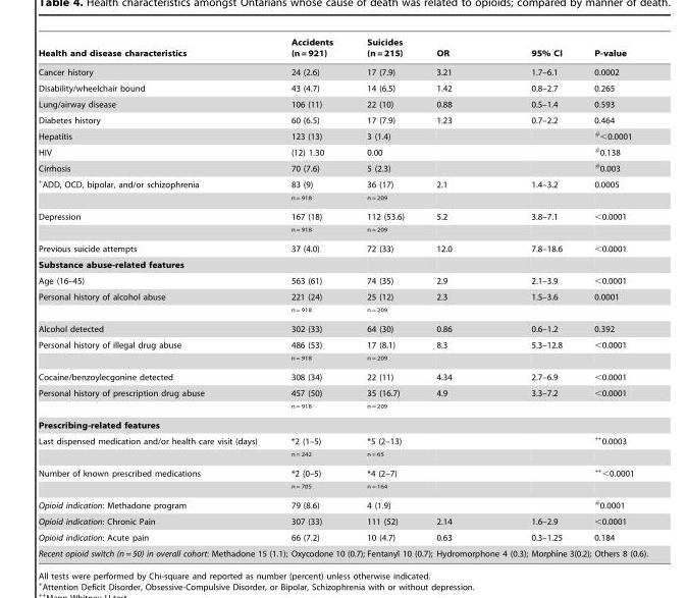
<table><thead><tr><td>Health and disease characteristics</td><td>Accidents (n = 921)</td><td>Suicides (n = 215)</td><td>OR</td><td>95% CI</td><td>P-value</td></tr></thead><tbody><tr><td>Cancer history</td><td>24 (2.6)</td><td>17 (7.9)</td><td>3.21</td><td>1.7–6.1</td><td>0.0002</td></tr><tr><td>Disability/wheelchair bound</td><td>43 (4.7)</td><td>14 (6.5)</td><td>1.42</td><td>0.8–2.7</td><td>0.265</td></tr><tr><td>Lung/airway disease</td><td>106 (11)</td><td>22 (10)</td><td>0.88</td><td>0.5–1.4</td><td>0.593</td></tr><tr><td>Diabetes history</td><td>60 (6.5)</td><td>17 (7.9)</td><td>1.23</td><td>0.7–2.2</td><td>0.464</td></tr><tr><td>Hepatitis</td><td>123 (13)</td><td>3 (1.4)</td><td></td><td></td><td>#&lt;0.0001</td></tr><tr><td>HIV</td><td>(12) 1.30</td><td>0.00</td><td></td><td></td><td>#0.138</td></tr><tr><td>Cirrhosis</td><td>70 (7.6)</td><td>5 (2.3)</td><td></td><td></td><td>#0.003</td></tr><tr><td rowspan="2">+ADD, OCD, bipolar, and/or schizophrenia</td><td>83 (9)</td><td>36 (17)</td><td>2.1</td><td>1.4–3.2</td><td>0.0005</td></tr><tr><td><sup>n = 918</sup></td><td><sup>n = 209</sup></td><td></td><td></td><td></td></tr><tr><td rowspan="2">Depression</td><td>167 (18)</td><td>112 (53.6)</td><td>5.2</td><td>3.8–7.1</td><td>&lt;0.0001</td></tr><tr><td><sup>n = 918</sup></td><td><sup>n = 209</sup></td><td></td><td></td><td></td></tr><tr><td>Previous suicide attempts</td><td>37 (4.0)</td><td>72 (33)</td><td>12.0</td><td>7.8–18.6</td><td>&lt;0.0001</td></tr><tr><td colspan="6">Substance abuse-related features</td></tr><tr><td>Age (16–45)</td><td>563 (61)</td><td>74 (35)</td><td>2.9</td><td>2.1–3.9</td><td>&lt;0.0001</td></tr><tr><td rowspan="2">Personal history of alcohol abuse</td><td>221 (24)</td><td>25 (12)</td><td>2.3</td><td>1.5–3.6</td><td>0.0001</td></tr><tr><td><sup>n = 918</sup></td><td><sup>n = 209</sup></td><td></td><td></td><td></td></tr><tr><td>Alcohol detected</td><td>302 (33)</td><td>64 (30)</td><td>0.86</td><td>0.6–1.2</td><td>0.392</td></tr><tr><td rowspan="2">Personal history of illegal drug abuse</td><td>486 (53)</td><td>17 (8.1)</td><td>8.3</td><td>5.3–12.8</td><td>&lt;0.0001</td></tr><tr><td><sup>n = 918</sup></td><td><sup>n = 209</sup></td><td></td><td></td><td></td></tr><tr><td>Cocaine/benzoylecgonine detected</td><td>308 (34)</td><td>22 (11)</td><td>4.34</td><td>2.7–6.9</td><td>&lt;0.0001</td></tr><tr><td rowspan="2">Personal history of prescription drug abuse</td><td>457 (50)</td><td>35 (16.7)</td><td>4.9</td><td>3.3–7.2</td><td>&lt;0.0001</td></tr><tr><td><sup>n = 918</sup></td><td><sup>n = 209</sup></td><td></td><td></td><td></td></tr><tr><td colspan="6">Prescribing-related features</td></tr><tr><td rowspan="2">Last dispensed medication and/or health care visit (days)</td><td>*2 (1–5)</td><td>*5 (2–13)</td><td></td><td></td><td>++0.0003</td></tr><tr><td><sup>n = 242</sup></td><td><sup>n = 65</sup></td><td></td><td></td><td></td></tr><tr><td rowspan="2">Number of known prescribed medications</td><td>*2 (0–5)</td><td>*4 (2–7)</td><td></td><td></td><td>++&lt;0.0001</td></tr><tr><td><sup>n = 705</sup></td><td><sup>n = 164</sup></td><td></td><td></td><td></td></tr><tr><td>Opioid indication: Methadone program</td><td>79 (8.6)</td><td>4 (1.9)</td><td></td><td></td><td>#0.0001</td></tr><tr><td>Opioid indication: Chronic Pain</td><td>307 (33)</td><td>111 (52)</td><td>2.14</td><td>1.6–2.9</td><td>&lt;0.0001</td></tr><tr><td>Opioid indication: Acute pain</td><td>66 (7.2)</td><td>10 (4.7)</td><td>0.63</td><td>0.3–1.25</td><td>0.184</td></tr><tr><td>Recent opioid switch (n = 50) in overall cohort: Methadone 15 (1.1);</td><td>Oxycodone 10 (0.7);</td><td>Fentanyl 10 (0.7);</td><td>Hydromorphone 4 (0.3);</td><td>Morphine 3(0.2);</td><td>Others 8 (0.6).</td></tr></tbody></table>